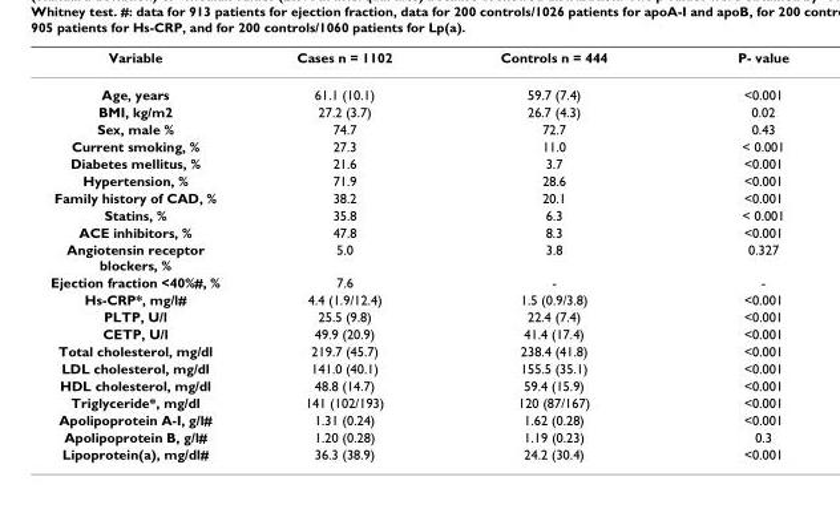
<table><thead><tr><td>Variable</td><td>Cases n = 1102</td><td>Controls n = 444</td><td>P- value</td></tr></thead><tbody><tr><td>Age, years</td><td>61.1 (10.1)</td><td>59.7 (7.4)</td><td>&lt;0.001</td></tr><tr><td>BMI, kg/m2</td><td>27.2 (3.7)</td><td>26.7 (4.3)</td><td>0.02</td></tr><tr><td>Sex, male %</td><td>74.7</td><td>72.7</td><td>0.43</td></tr><tr><td>Current smoking, %</td><td>27.3</td><td>11.0</td><td>&lt; 0.001</td></tr><tr><td>Diabetes mellitus, %</td><td>21.6</td><td>3.7</td><td>&lt;0.001</td></tr><tr><td>Hypertension, %</td><td>71.9</td><td>28.6</td><td>&lt;0.001</td></tr><tr><td>Family history of CAD, %</td><td>38.2</td><td>20.1</td><td>&lt;0.001</td></tr><tr><td>Statins, %</td><td>35.8</td><td>6.3</td><td>&lt; 0.001</td></tr><tr><td>ACE inhibitors, %</td><td>47.8</td><td>8.3</td><td>&lt;0.001</td></tr><tr><td>Angiotensin receptor blockers, %</td><td>5.0</td><td>3.8</td><td>0.327</td></tr><tr><td>Ejection fraction &lt;40%#, %</td><td>7.6</td><td>-</td><td>-</td></tr><tr><td>Hs-CRP*, mg/l#</td><td>4.4 (1.9/12.4)</td><td>1.5 (0.9/3.8)</td><td>&lt;0.001</td></tr><tr><td>PLTP, U/l</td><td>25.5 (9.8)</td><td>22.4 (7.4)</td><td>&lt;0.001</td></tr><tr><td>CETP, U/l</td><td>49.9 (20.9)</td><td>41.4 (17.4)</td><td>&lt;0.001</td></tr><tr><td>Total cholesterol, mg/dl</td><td>219.7 (45.7)</td><td>238.4 (41.8)</td><td>&lt;0.001</td></tr><tr><td>LDL cholesterol, mg/dl</td><td>141.0 (40.1)</td><td>155.5 (35.1)</td><td>&lt;0.001</td></tr><tr><td>HDL cholesterol, mg/dl</td><td>48.8 (14.7)</td><td>59.4 (15.9)</td><td>&lt;0.001</td></tr><tr><td>Triglyceride*, mg/dl</td><td>141 (102/193)</td><td>120 (87/167)</td><td>&lt;0.001</td></tr><tr><td>Apolipoprotein A-I, g/l#</td><td>1.31 (0.24)</td><td>1.62 (0.28)</td><td>&lt;0.001</td></tr><tr><td>Apolipoprotein B, g/l#</td><td>1.20 (0.28)</td><td>1.19 (0.23)</td><td>0.3</td></tr><tr><td>Lipoprotein(a), mg/dl#</td><td>36.3 (38.9)</td><td>24.2 (30.4)</td><td>&lt;0.001</td></tr></tbody></table>